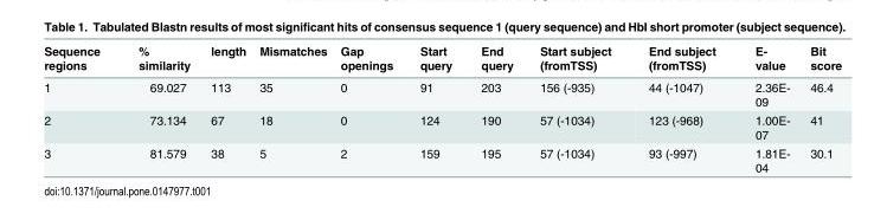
<table><thead><tr><td>Sequence regions</td><td>% similarity</td><td>length</td><td>Mismatches</td><td>Gap openings</td><td>Start query</td><td>End query</td><td>Start subject (fromTSS)</td><td>End subject (fromTSS)</td><td>E- value</td><td>Bit score</td></tr></thead><tbody><tr><td>1</td><td>69.027</td><td>113</td><td>35</td><td>0</td><td>91</td><td>203</td><td>156 (-935)</td><td>44 (-1047)</td><td>2.36E- 09</td><td>46.4</td></tr><tr><td>2</td><td>73.134</td><td>67</td><td>18</td><td>0</td><td>124</td><td>190</td><td>57 (-1034)</td><td>123 (-968)</td><td>1.00E- 07</td><td>41</td></tr><tr><td>3</td><td>81.579</td><td>38</td><td>5</td><td>2</td><td>159</td><td>195</td><td>57 (-1034)</td><td>93 (-997)</td><td>1.81E- 04</td><td>30.1</td></tr></tbody></table>